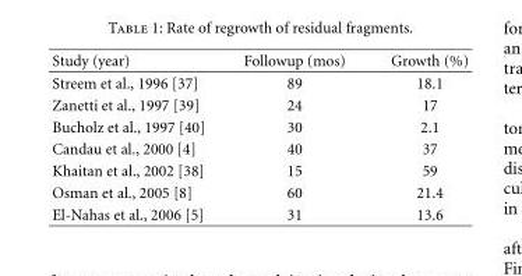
<table><thead><tr><td>Study (year)</td><td>Followup (mos)</td><td>Growth (%)</td></tr></thead><tbody><tr><td>Streem et al., 1996 [37]</td><td>89</td><td>18.1</td></tr><tr><td>Zanetti et al., 1997 [39]</td><td>24</td><td>17</td></tr><tr><td>Bucholz et al., 1997 [40]</td><td>30</td><td>2.1</td></tr><tr><td>Candau et al., 2000 [4]</td><td>40</td><td>37</td></tr><tr><td>Khaitan et al., 2002 [38]</td><td>15</td><td>59</td></tr><tr><td>Osman et al., 2005 [8]</td><td>60</td><td>21.4</td></tr><tr><td>El-Nahas et al., 2006 [5]</td><td>31</td><td>13.6</td></tr></tbody></table>